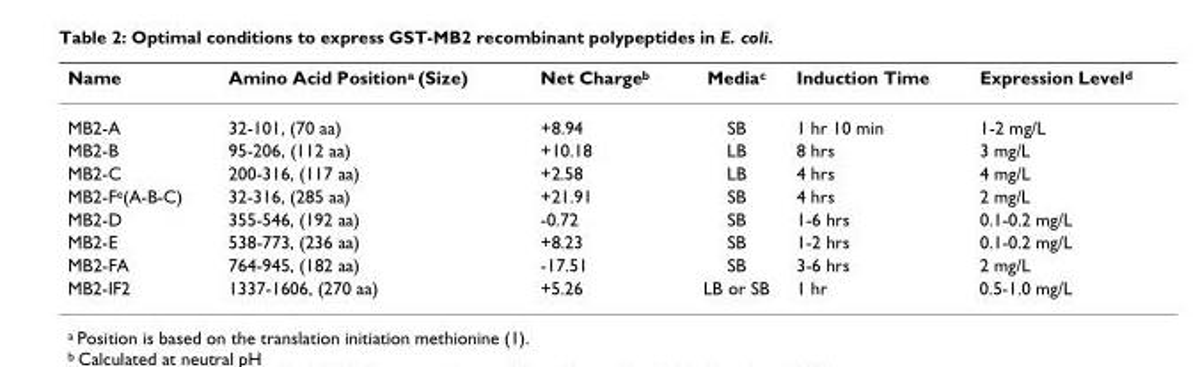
<table><thead><tr><td>Name</td><td>Amino Acid Position<sup>a</sup> (Size)</td><td>Net Charge<sup>b</sup></td><td>Media<sup>c</sup></td><td>Induction Time</td><td>Expression Level<sup>d</sup></td></tr></thead><tbody><tr><td>MB2-A</td><td>32-101, (70 aa)</td><td>+8.94</td><td>SB</td><td>1 hr 10 min</td><td>1-2 mg/L</td></tr><tr><td>MB2-B</td><td>95-206, (112 aa)</td><td>+10.18</td><td>LB</td><td>8 hrs</td><td>3 mg/L</td></tr><tr><td>MB2-C</td><td>200-316, (117 aa)</td><td>+2.58</td><td>LB</td><td>4 hrs</td><td>4 mg/L</td></tr><tr><td>MB2-F<sup>e</sup>(A-B-C)</td><td>32-316, (285 aa)</td><td>+21.91</td><td>SB</td><td>4 hrs</td><td>2 mg/L</td></tr><tr><td>MB2-D</td><td>355-546, (192 aa)</td><td>-0.72</td><td>SB</td><td>1-6 hrs</td><td>0.1-0.2 mg/L</td></tr><tr><td>MB2-E</td><td>538-773, (236 aa)</td><td>+8.23</td><td>SB</td><td>1-2 hrs</td><td>0.1-0.2 mg/L</td></tr><tr><td>MB2-FA</td><td>764-945, (182 aa)</td><td>-17.51</td><td>SB</td><td>3-6 hrs</td><td>2 mg/L</td></tr><tr><td>MB2-IF2</td><td>1337-1606, (270 aa)</td><td>+5.26</td><td>LB or SB</td><td>1 hr</td><td>0.5-1.0 mg/L</td></tr></tbody></table>